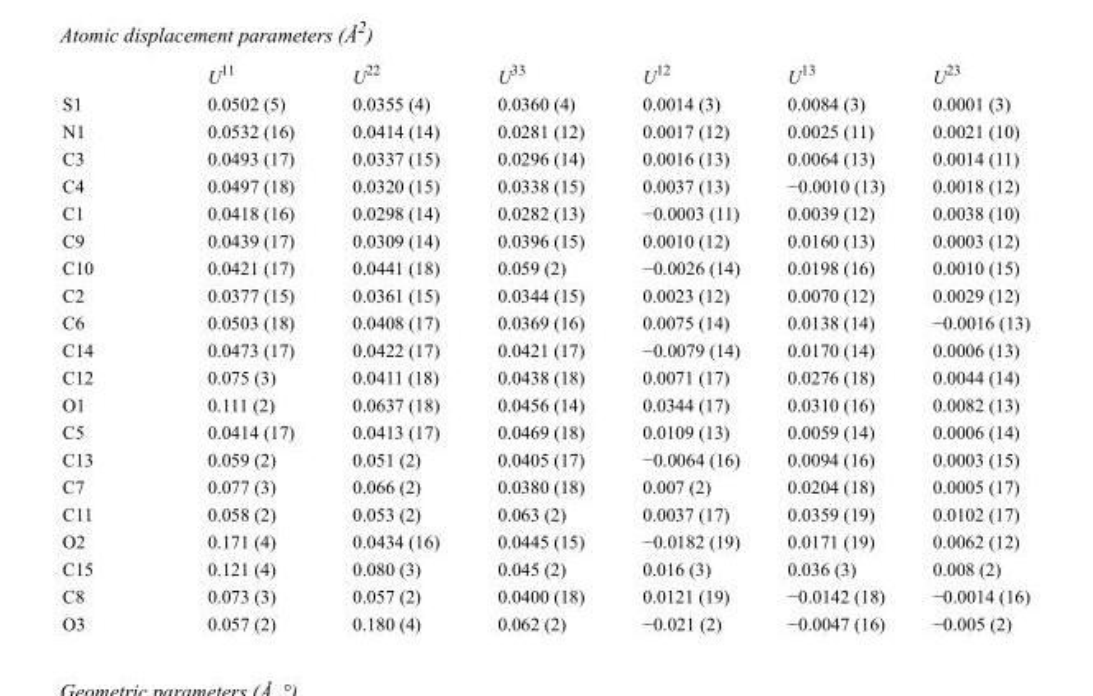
<table><thead><tr><td></td><td>U<sup>11</sup></td><td>U<sup>22</sup></td><td>U<sup>33</sup></td><td>U<sup>12</sup></td><td>U<sup>13</sup></td><td>U<sup>23</sup></td></tr></thead><tbody><tr><td>S1</td><td>0.0502 (5)</td><td>0.0355 (4)</td><td>0.0360 (4)</td><td>0.0014 (3)</td><td>0.0084 (3)</td><td>0.0001 (3)</td></tr><tr><td>N1</td><td>0.0532 (16)</td><td>0.0414 (14)</td><td>0.0281 (12)</td><td>0.0017 (12)</td><td>0.0025 (11)</td><td>0.0021 (10)</td></tr><tr><td>C3</td><td>0.0493 (17)</td><td>0.0337 (15)</td><td>0.0296 (14)</td><td>0.0016 (13)</td><td>0.0064 (13)</td><td>0.0014 (11)</td></tr><tr><td>C4</td><td>0.0497 (18)</td><td>0.0320 (15)</td><td>0.0338 (15)</td><td>0.0037 (13)</td><td>−0.0010 (13)</td><td>0.0018 (12)</td></tr><tr><td>C1</td><td>0.0418 (16)</td><td>0.0298 (14)</td><td>0.0282 (13)</td><td>−0.0003 (11)</td><td>0.0039 (12)</td><td>0.0038 (10)</td></tr><tr><td>C9</td><td>0.0439 (17)</td><td>0.0309 (14)</td><td>0.0396 (15)</td><td>0.0010 (12)</td><td>0.0160 (13)</td><td>0.0003 (12)</td></tr><tr><td>C10</td><td>0.0421 (17)</td><td>0.0441 (18)</td><td>0.059 (2)</td><td>−0.0026 (14)</td><td>0.0198 (16)</td><td>0.0010 (15)</td></tr><tr><td>C2</td><td>0.0377 (15)</td><td>0.0361 (15)</td><td>0.0344 (15)</td><td>0.0023 (12)</td><td>0.0070 (12)</td><td>0.0029 (12)</td></tr><tr><td>C6</td><td>0.0503 (18)</td><td>0.0408 (17)</td><td>0.0369 (16)</td><td>0.0075 (14)</td><td>0.0138 (14)</td><td>−0.0016 (13)</td></tr><tr><td>C14</td><td>0.0473 (17)</td><td>0.0422 (17)</td><td>0.0421 (17)</td><td>−0.0079 (14)</td><td>0.0170 (14)</td><td>0.0006 (13)</td></tr><tr><td>C12</td><td>0.075 (3)</td><td>0.0411 (18)</td><td>0.0438 (18)</td><td>0.0071 (17)</td><td>0.0276 (18)</td><td>0.0044 (14)</td></tr><tr><td>O1</td><td>0.111 (2)</td><td>0.0637 (18)</td><td>0.0456 (14)</td><td>0.0344 (17)</td><td>0.0310 (16)</td><td>0.0082 (13)</td></tr><tr><td>C5</td><td>0.0414 (17)</td><td>0.0413 (17)</td><td>0.0469 (18)</td><td>0.0109 (13)</td><td>0.0059 (14)</td><td>0.0006 (14)</td></tr><tr><td>C13</td><td>0.059 (2)</td><td>0.051 (2)</td><td>0.0405 (17)</td><td>−0.0064 (16)</td><td>0.0094 (16)</td><td>0.0003 (15)</td></tr><tr><td>C7</td><td>0.077 (3)</td><td>0.066 (2)</td><td>0.0380 (18)</td><td>0.007 (2)</td><td>0.0204 (18)</td><td>0.0005 (17)</td></tr><tr><td>C11</td><td>0.058 (2)</td><td>0.053 (2)</td><td>0.063 (2)</td><td>0.0037 (17)</td><td>0.0359 (19)</td><td>0.0102 (17)</td></tr><tr><td>O2</td><td>0.171 (4)</td><td>0.0434 (16)</td><td>0.0445 (15)</td><td>−0.0182 (19)</td><td>0.0171 (19)</td><td>0.0062 (12)</td></tr><tr><td>C15</td><td>0.121 (4)</td><td>0.080 (3)</td><td>0.045 (2)</td><td>0.016 (3)</td><td>0.036 (3)</td><td>0.008 (2)</td></tr><tr><td>C8</td><td>0.073 (3)</td><td>0.057 (2)</td><td>0.0400 (18)</td><td>0.0121 (19)</td><td>−0.0142 (18)</td><td>−0.0014 (16)</td></tr><tr><td>O3</td><td>0.057 (2)</td><td>0.180 (4)</td><td>0.062 (2)</td><td>−0.021 (2)</td><td>−0.0047 (16)</td><td>−0.005 (2)</td></tr></tbody></table>